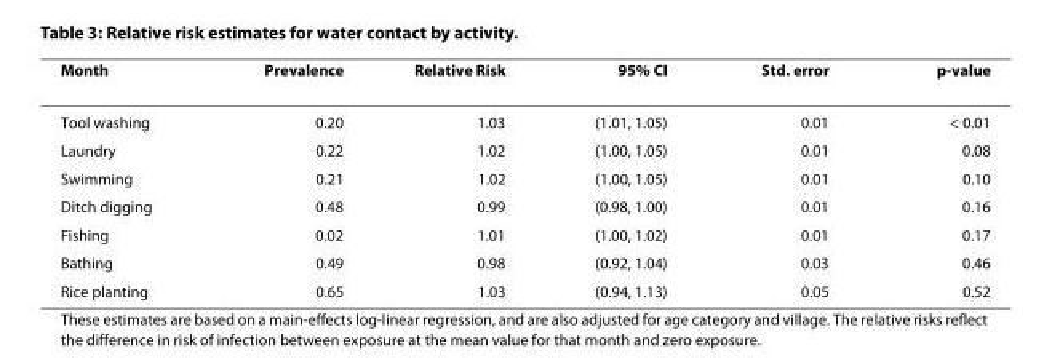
<table><thead><tr><td>Month</td><td>Prevalence</td><td>Relative Risk</td><td>95% CI</td><td>Std. error</td><td>p-value</td></tr></thead><tbody><tr><td>Tool washing</td><td>0.20</td><td>1.03</td><td>(1.01, 1.05)</td><td>0.01</td><td>&lt; 0.01</td></tr><tr><td>Laundry</td><td>0.22</td><td>1.02</td><td>(1.00, 1.05)</td><td>0.01</td><td>0.08</td></tr><tr><td>Swimming</td><td>0.21</td><td>1.02</td><td>(1.00, 1.05)</td><td>0.01</td><td>0.10</td></tr><tr><td>Ditch digging</td><td>0.48</td><td>0.99</td><td>(0.98, 1.00)</td><td>0.01</td><td>0.16</td></tr><tr><td>Fishing</td><td>0.02</td><td>1.01</td><td>(1.00, 1.02)</td><td>0.01</td><td>0.17</td></tr><tr><td>Bathing</td><td>0.49</td><td>0.98</td><td>(0.92, 1.04)</td><td>0.03</td><td>0.46</td></tr><tr><td>Rice planting</td><td>0.65</td><td>1.03</td><td>(0.94, 1.13)</td><td>0.05</td><td>0.52</td></tr></tbody></table>